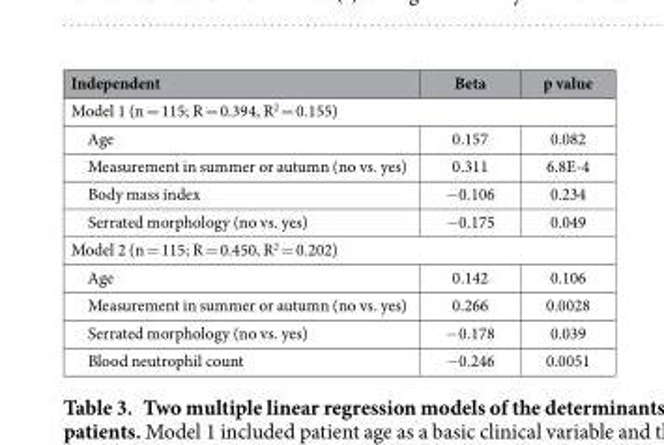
<table><thead><tr><td>Independent</td><td>Beta</td><td>p value</td></tr></thead><tbody><tr><td colspan="3">Model 1 (n = 115; R = 0.394, R<sup>2</sup> = 0.155)</td></tr><tr><td>Age</td><td>0.157</td><td>0.082</td></tr><tr><td>Measurement in summer or autumn (no vs. yes)</td><td>0.311</td><td>6.8E-4</td></tr><tr><td>Body mass index</td><td>− 0.106</td><td>0.234</td></tr><tr><td>Serrated morphology (no vs. yes)</td><td>− 0.175</td><td>0.049</td></tr><tr><td colspan="3">Model 2 (n = 115; R = 0.450, R<sup>2</sup> = 0.202)</td></tr><tr><td>Age</td><td>0.142</td><td>0.106</td></tr><tr><td>Measurement in summer or autumn (no vs. yes)</td><td>0.266</td><td>0.0028</td></tr><tr><td>Serrated morphology (no vs. yes)</td><td>− 0.178</td><td>0.039</td></tr><tr><td>Blood neutrophil count</td><td>− 0.246</td><td>0.0051</td></tr></tbody></table>